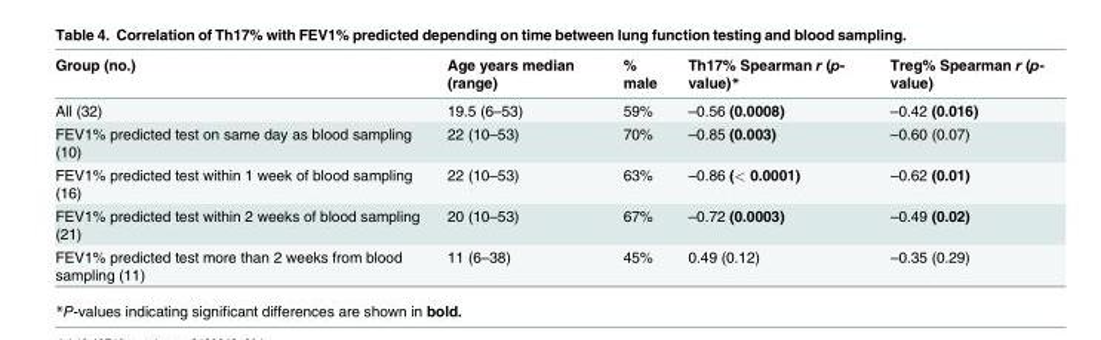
<table><thead><tr><td>Group (no.)</td><td>Age years median (range)</td><td>% male</td><td>Th17% Spearman r (p- value)*</td><td>Treg% Spearman r (p- value)</td></tr></thead><tbody><tr><td>All (32)</td><td>19.5 (6–53)</td><td>59%</td><td>–0.56 (0.0008)</td><td>–0.42 (0.016)</td></tr><tr><td>FEV1% predicted test on same day as blood sampling (10)</td><td>22 (10–53)</td><td>70%</td><td>–0.85 (0.003)</td><td>–0.60 (0.07)</td></tr><tr><td>FEV1% predicted test within 1 week of blood sampling (16)</td><td>22 (10–53)</td><td>63%</td><td>–0.86 (&lt; 0.0001)</td><td>–0.62 (0.01)</td></tr><tr><td>FEV1% predicted test within 2 weeks of blood sampling (21)</td><td>20 (10–53)</td><td>67%</td><td>–0.72 (0.0003)</td><td>–0.49 (0.02)</td></tr><tr><td>FEV1% predicted test more than 2 weeks from blood sampling (11)</td><td>11 (6–38)</td><td>45%</td><td>0.49 (0.12)</td><td>–0.35 (0.29)</td></tr></tbody></table>